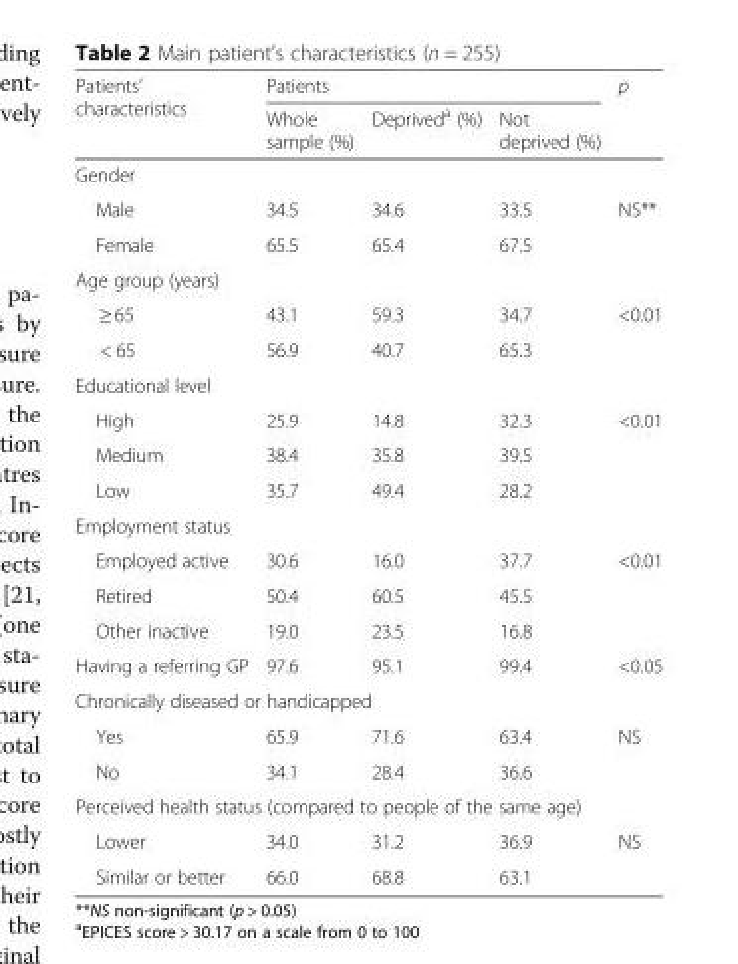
<table><thead><tr><td rowspan="2">Patients’ characteristics</td><td colspan="3">Patients</td><td rowspan="2">p</td></tr><tr><td>Whole sample (%)</td><td>Deprived<sup>a</sup> (%)</td><td>Not deprived (%)</td></tr></thead><tbody><tr><td colspan="5">Gender</td></tr><tr><td>Male</td><td>34.5</td><td>34.6</td><td>33.5</td><td>NS**</td></tr><tr><td>Female</td><td>65.5</td><td>65.4</td><td>67.5</td><td></td></tr><tr><td colspan="5">Age group (years)</td></tr><tr><td>≥ 65</td><td>43.1</td><td>59.3</td><td>34.7</td><td>&lt;0.01</td></tr><tr><td>&lt; 65</td><td>56.9</td><td>40.7</td><td>65.3</td><td></td></tr><tr><td colspan="5">Educational level</td></tr><tr><td>High</td><td>25.9</td><td>14.8</td><td>32.3</td><td>&lt;0.01</td></tr><tr><td>Medium</td><td>38.4</td><td>35.8</td><td>39.5</td><td></td></tr><tr><td>Low</td><td>35.7</td><td>49.4</td><td>28.2</td><td></td></tr><tr><td colspan="5">Employment status</td></tr><tr><td>Employed active</td><td>30.6</td><td>16.0</td><td>37.7</td><td rowspan="3">&lt;0.01</td></tr><tr><td>Retired</td><td>50.4</td><td>60.5</td><td>45.5</td></tr><tr><td>Other inactive</td><td>19.0</td><td>23.5</td><td>16.8</td></tr><tr><td>Having a referring GP</td><td>97.6</td><td>95.1</td><td>99.4</td><td>&lt;0.05</td></tr><tr><td colspan="5">Chronically diseased or handicapped</td></tr><tr><td>Yes</td><td>65.9</td><td>71.6</td><td>63.4</td><td>NS</td></tr><tr><td>No</td><td>34.1</td><td>28.4</td><td>36.6</td><td></td></tr><tr><td colspan="5">Perceived health status (compared to people of the same age)</td></tr><tr><td>Lower</td><td>34.0</td><td>31.2</td><td>36.9</td><td>NS</td></tr><tr><td>Similar or better</td><td>66.0</td><td>68.8</td><td>63.1</td><td></td></tr></tbody></table>